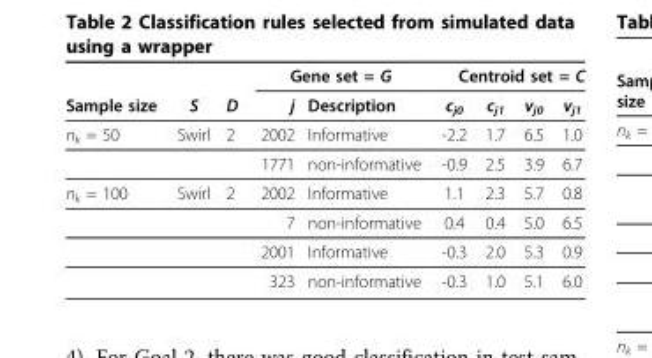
<table><thead><tr><td rowspan="2">Sample size</td><td rowspan="2">S</td><td rowspan="2">D</td><td colspan="2">Gene set = G</td><td colspan="4">Centroid set = C</td></tr><tr><td>j</td><td>Description</td><td>c<sub>j0</sub></td><td>c<sub>j1</sub></td><td>v<sub>j0</sub></td><td>v<sub>j1</sub></td></tr></thead><tbody><tr><td rowspan="2">n<sub>k</sub> = 50</td><td>Swirl</td><td>2</td><td>2002</td><td>Informative</td><td>-2.2</td><td>1.7</td><td>6.5</td><td>1.0</td></tr><tr><td></td><td></td><td>1771</td><td>non-informative</td><td>-0.9</td><td>2.5</td><td>3.9</td><td>6.7</td></tr><tr><td rowspan="4">n<sub>k</sub> = 100</td><td>Swirl</td><td>2</td><td>2002</td><td>Informative</td><td>1.1</td><td>2.3</td><td>5.7</td><td>0.8</td></tr><tr><td></td><td></td><td>7</td><td>non-informative</td><td>0.4</td><td>0.4</td><td>5.0</td><td>6.5</td></tr><tr><td></td><td></td><td>2001</td><td>Informative</td><td>-0.3</td><td>2.0</td><td>5.3</td><td>0.9</td></tr><tr><td></td><td></td><td>323</td><td>non-informative</td><td>-0.3</td><td>1.0</td><td>5.1</td><td>6.0</td></tr></tbody></table>